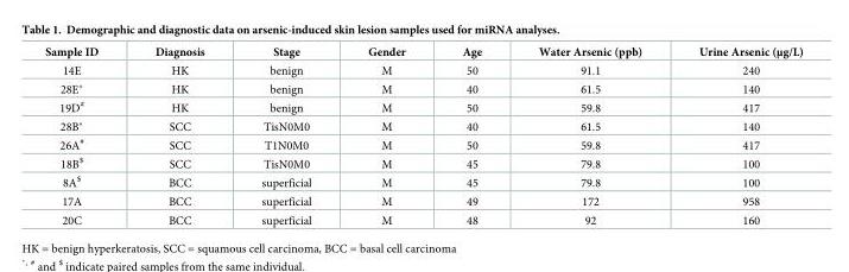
<table><thead><tr><td>Sample ID</td><td>Diagnosis</td><td>Stage</td><td>Gender</td><td>Age</td><td>Water Arsenic (ppb)</td><td>Urine Arsenic (μg/L)</td></tr></thead><tbody><tr><td>14E</td><td>HK</td><td>benign</td><td>M</td><td>50</td><td>91.1</td><td>240</td></tr><tr><td>28E*</td><td>HK</td><td>benign</td><td>M</td><td>40</td><td>61.5</td><td>140</td></tr><tr><td>19D<sup>#</sup></td><td>HK</td><td>benign</td><td>M</td><td>50</td><td>59.8</td><td>417</td></tr><tr><td>28B*</td><td>SCC</td><td>TisN0M0</td><td>M</td><td>40</td><td>61.5</td><td>140</td></tr><tr><td>26A<sup>#</sup></td><td>SCC</td><td>T1N0M0</td><td>M</td><td>50</td><td>59.8</td><td>417</td></tr><tr><td>18B<sup>$</sup></td><td>SCC</td><td>TisN0M0</td><td>M</td><td>45</td><td>79.8</td><td>100</td></tr><tr><td>8A<sup>$</sup></td><td>BCC</td><td>superficial</td><td>M</td><td>45</td><td>79.8</td><td>100</td></tr><tr><td>17A</td><td>BCC</td><td>superficial</td><td>M</td><td>49</td><td>172</td><td>958</td></tr><tr><td>20C</td><td>BCC</td><td>superficial</td><td>M</td><td>48</td><td>92</td><td>160</td></tr></tbody></table>